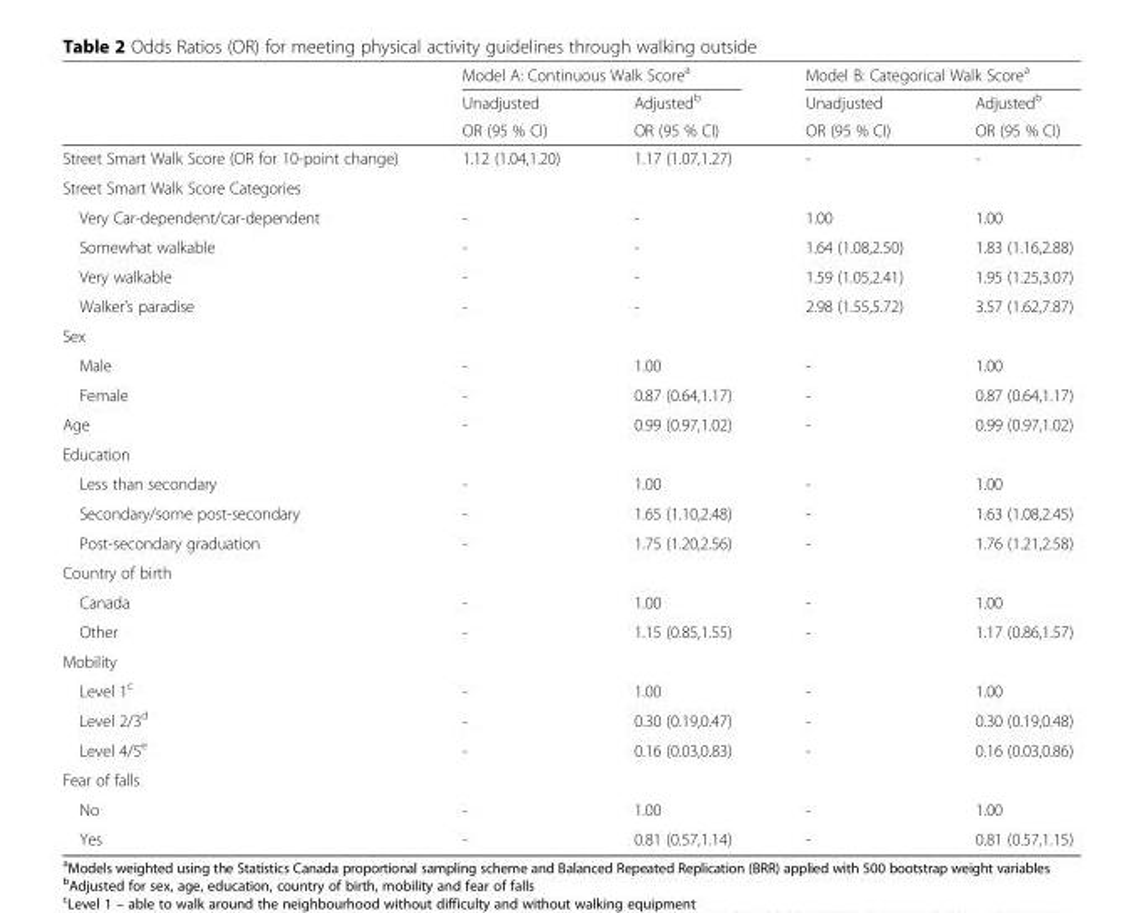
<table><thead><tr><td rowspan="3"></td><td colspan="2">Model A: Continuous Walk Score<sup>a</sup></td><td colspan="2">Model B: Categorical Walk Score<sup>a</sup></td></tr><tr><td rowspan="2">Unadjusted OR (95 % CI)</td><td rowspan="2">Adjusted<sup>b</sup> OR (95 % CI)</td><td rowspan="2">Unadjusted OR (95 % CI)</td><td rowspan="2">Adjusted<sup>b</sup> OR (95 % CI)</td></tr><tr></tr></thead><tbody><tr><td>Street Smart Walk Score (OR for 10-point change)</td><td>1.12 (1.04,1.20)</td><td>1.17 (1.07,1.27)</td><td>-</td><td>-</td></tr><tr><td colspan="5">Street Smart Walk Score Categories</td></tr><tr><td>Very Car-dependent/car-dependent</td><td>-</td><td>-</td><td>1.00</td><td>1.00</td></tr><tr><td>Somewhat walkable</td><td>-</td><td>-</td><td>1.64 (1.08,2.50)</td><td>1.83 (1.16,2.88)</td></tr><tr><td>Very walkable</td><td>-</td><td>-</td><td>1.59 (1.05,2.41)</td><td>1.95 (1.25,3.07)</td></tr><tr><td>Walker’s paradise</td><td>-</td><td>-</td><td>2.98 (1.55,5.72)</td><td>3.57 (1.62,7.87)</td></tr><tr><td colspan="5">Sex</td></tr><tr><td>Male</td><td>-</td><td>1.00</td><td>-</td><td>1.00</td></tr><tr><td>Female</td><td>-</td><td>0.87 (0.64,1.17)</td><td>-</td><td>0.87 (0.64,1.17)</td></tr><tr><td>Age</td><td>-</td><td>0.99 (0.97,1.02)</td><td>-</td><td>0.99 (0.97,1.02)</td></tr><tr><td colspan="5">Education</td></tr><tr><td>Less than secondary</td><td>-</td><td>1.00</td><td>-</td><td>1.00</td></tr><tr><td>Secondary/some post-secondary</td><td>-</td><td>1.65 (1.10,2.48)</td><td>-</td><td>1.63 (1.08,2.45)</td></tr><tr><td>Post-secondary graduation</td><td>-</td><td>1.75 (1.20,2.56)</td><td>-</td><td>1.76 (1.21,2.58)</td></tr><tr><td colspan="5">Country of birth</td></tr><tr><td>Canada</td><td>-</td><td>1.00</td><td>-</td><td>1.00</td></tr><tr><td>Other</td><td>-</td><td>1.15 (0.85,1.55)</td><td>-</td><td>1.17 (0.86,1.57)</td></tr><tr><td colspan="5">Mobility</td></tr><tr><td>Level 1<sup>c</sup></td><td>-</td><td>1.00</td><td>-</td><td>1.00</td></tr><tr><td>Level 2/3<sup>d</sup></td><td>-</td><td>0.30 (0.19,0.47)</td><td>-</td><td>0.30 (0.19,0.48)</td></tr><tr><td>Level 4/5<sup>e</sup></td><td>-</td><td>0.16 (0.03,0.83)</td><td>-</td><td>0.16 (0.03,0.86)</td></tr><tr><td colspan="5">Fear of falls</td></tr><tr><td>No</td><td>-</td><td>1.00</td><td>-</td><td>1.00</td></tr><tr><td>Yes</td><td>-</td><td>0.81 (0.57,1.14)</td><td>-</td><td>0.81 (0.57,1.15)</td></tr></tbody></table>